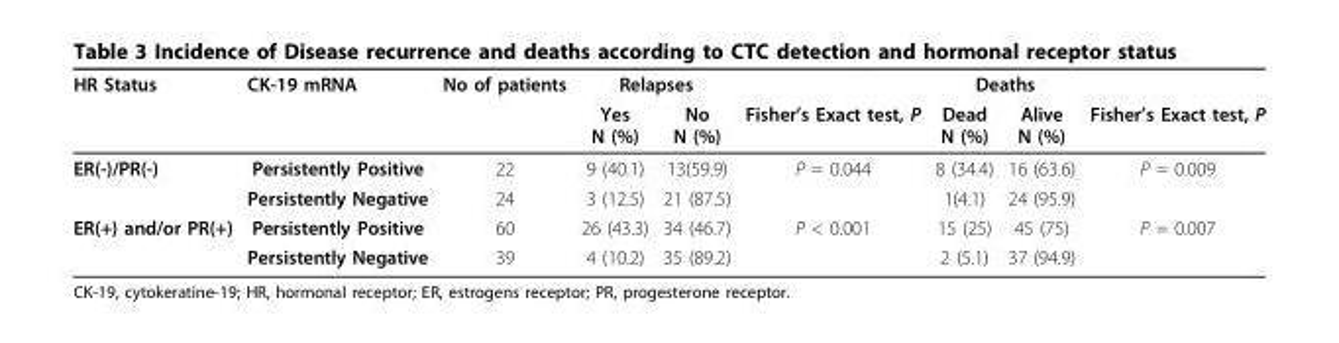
<table><thead><tr><td rowspan="2">HR Status</td><td rowspan="2">CK-19 mRNA</td><td rowspan="2">No of patients</td><td colspan="2">Relapses</td><td rowspan="2">Fisher’s Exact test, P</td><td colspan="2">Deaths</td><td rowspan="2">Fisher’s Exact test, P</td></tr><tr><td>Yes N (%)</td><td>No N (%)</td><td>Dead N (%)</td><td>Alive N (%)</td></tr></thead><tbody><tr><td rowspan="2">ER(-)/PR(-)</td><td>Persistently Positive</td><td>22</td><td>9 (40.1)</td><td>13(59.9)</td><td>P = 0.044</td><td>8 (34.4)</td><td>16 (63.6)</td><td>P = 0.009</td></tr><tr><td>Persistently Negative</td><td>24</td><td>3 (12.5)</td><td>21 (87.5)</td><td></td><td>1(4.1)</td><td>24 (95.9)</td><td></td></tr><tr><td rowspan="2">ER(+) and/or PR(+)</td><td>Persistently Positive</td><td>60</td><td>26 (43.3)</td><td>34 (46.7)</td><td>P &lt; 0.001</td><td>15 (25)</td><td>45 (75)</td><td>P = 0.007</td></tr><tr><td>Persistently Negative</td><td>39</td><td>4 (10.2)</td><td>35 (89.2)</td><td></td><td>2 (5.1)</td><td>37 (94.9)</td><td></td></tr></tbody></table>